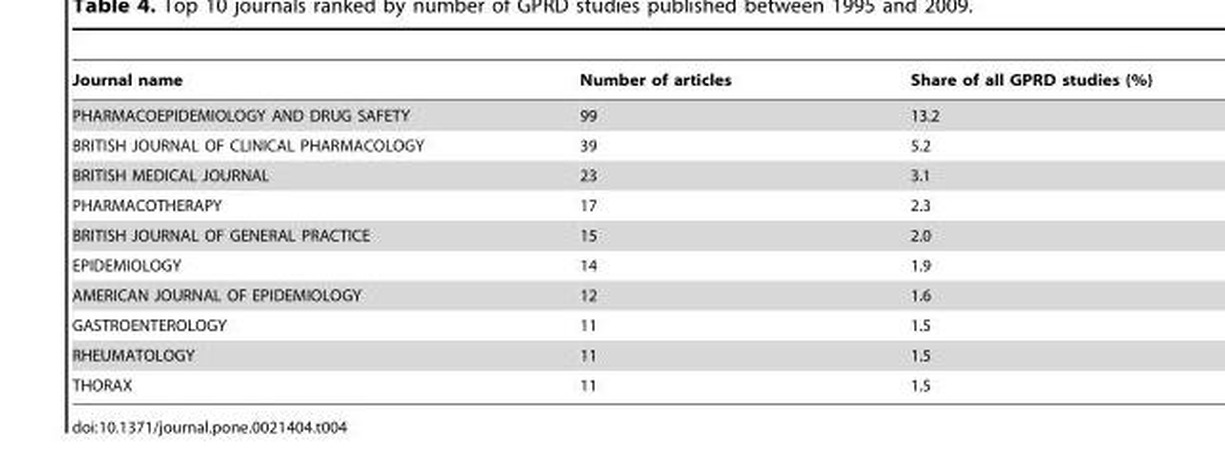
<table><thead><tr><td>Journal name</td><td>Number of articles</td><td>Share of all GPRD studies (%)</td></tr></thead><tbody><tr><td>PHARMACOEPIDEMIOLOGY AND DRUG SAFETY</td><td>99</td><td>13.2</td></tr><tr><td>BRITISH JOURNAL OF CLINICAL PHARMACOLOGY</td><td>39</td><td>5.2</td></tr><tr><td>BRITISH MEDICAL JOURNAL</td><td>23</td><td>3.1</td></tr><tr><td>PHARMACOTHERAPY</td><td>17</td><td>2.3</td></tr><tr><td>BRITISH JOURNAL OF GENERAL PRACTICE</td><td>15</td><td>2.0</td></tr><tr><td>EPIDEMIOLOGY</td><td>14</td><td>1.9</td></tr><tr><td>AMERICAN JOURNAL OF EPIDEMIOLOGY</td><td>12</td><td>1.6</td></tr><tr><td>GASTROENTEROLOGY</td><td>11</td><td>1.5</td></tr><tr><td>RHEUMATOLOGY</td><td>11</td><td>1.5</td></tr><tr><td>THORAX</td><td>11</td><td>1.5</td></tr></tbody></table>